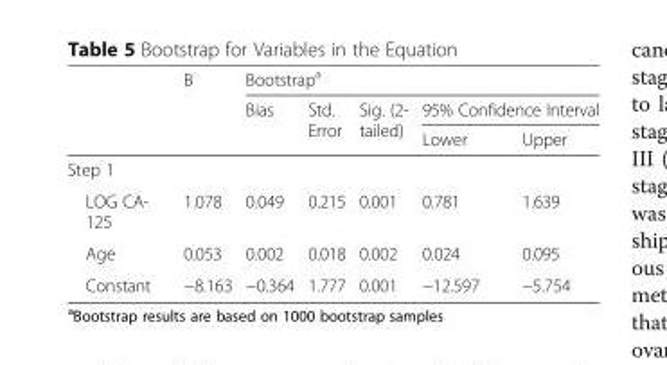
<table><thead><tr><td rowspan="3"></td><td rowspan="3">B</td><td colspan="5">Bootstrap<sup>a</sup></td></tr><tr><td rowspan="2">Bias</td><td rowspan="2">Std. Error</td><td rowspan="2">Sig. (2- tailed)</td><td colspan="2">95% Confidence Interval</td></tr><tr><td>Lower</td><td>Upper</td></tr></thead><tbody><tr><td colspan="7">Step 1</td></tr><tr><td>LOG CA- 125</td><td>1.078</td><td>0.049</td><td>0.215</td><td>0.001</td><td>0.781</td><td>1.639</td></tr><tr><td>Age</td><td>0.053</td><td>0.002</td><td>0.018</td><td>0.002</td><td>0.024</td><td>0.095</td></tr><tr><td>Constant</td><td>−8.163</td><td>−0.364</td><td>1.777</td><td>0.001</td><td>−12.597</td><td>−5.754</td></tr></tbody></table>